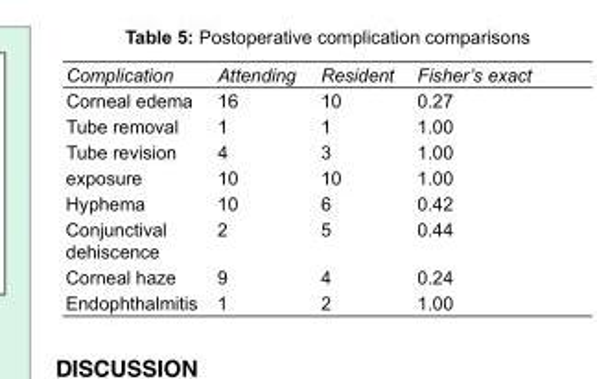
<table><tbody><tr><td>Complication</td><td>Attending</td><td>Resident</td><td>Fisher’s exact</td></tr><tr><td>Corneal edema</td><td>16</td><td>10</td><td>0.27</td></tr><tr><td>Tube removal</td><td>1</td><td>1</td><td>1.00</td></tr><tr><td>Tube revision</td><td>4</td><td>3</td><td>1.00</td></tr><tr><td>exposure</td><td>10</td><td>10</td><td>1.00</td></tr><tr><td>Hyphema</td><td>10</td><td>6</td><td>0.42</td></tr><tr><td>Conjunctival</td><td>2</td><td>5</td><td>0.44</td></tr><tr><td colspan="4">dehiscence</td></tr><tr><td>Corneal haze</td><td>9</td><td>4</td><td>0.24</td></tr><tr><td>Endophthalmitis</td><td>1</td><td>2</td><td>1.00</td></tr></tbody></table>